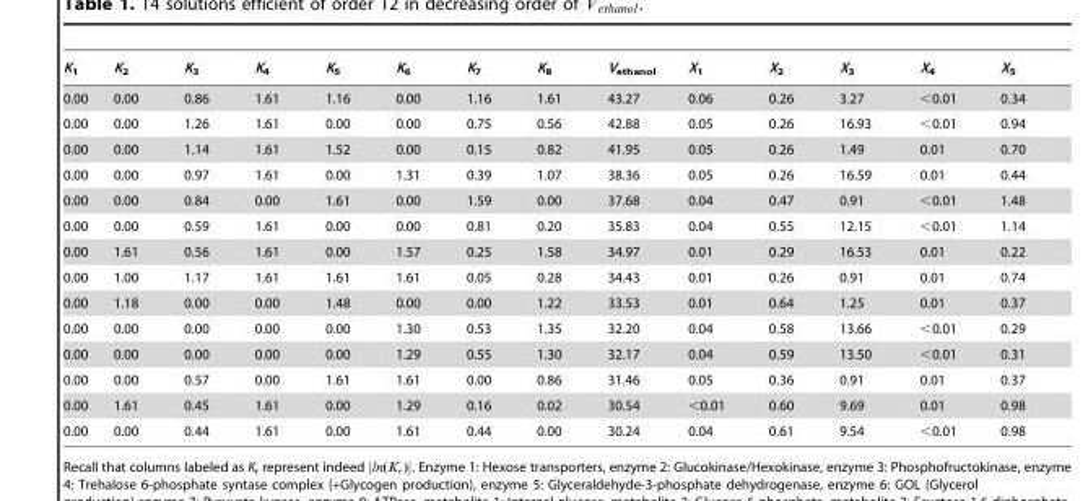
<table><thead><tr><td>K<sub>1</sub></td><td>K<sub>2</sub></td><td>K<sub>3</sub></td><td>K<sub>4</sub></td><td>K<sub>5</sub></td><td>K<sub>6</sub></td><td>K<sub>7</sub></td><td>K<sub>8</sub></td><td>V<sub>ethanol</sub></td><td>X<sub>1</sub></td><td>X<sub>2</sub></td><td>X<sub>3</sub></td><td>X<sub>4</sub></td><td>X<sub>5</sub></td></tr></thead><tbody><tr><td>0.00</td><td>0.00</td><td>0.86</td><td>1.61</td><td>1.16</td><td>0.00</td><td>1.16</td><td>1.61</td><td>43.27</td><td>0.06</td><td>0.26</td><td>3.27</td><td>&lt;0.01</td><td>0.34</td></tr><tr><td>0.00</td><td>0.00</td><td>1.26</td><td>1.61</td><td>0.00</td><td>0.00</td><td>0.75</td><td>0.56</td><td>42.88</td><td>0.05</td><td>0.26</td><td>16.93</td><td>&lt;0.01</td><td>0.94</td></tr><tr><td>0.00</td><td>0.00</td><td>1.14</td><td>1.61</td><td>1.52</td><td>0.00</td><td>0.15</td><td>0.82</td><td>41.95</td><td>0.05</td><td>0.26</td><td>1.49</td><td>0.01</td><td>0.70</td></tr><tr><td>0.00</td><td>0.00</td><td>0.97</td><td>1.61</td><td>0.00</td><td>1.31</td><td>0.39</td><td>1.07</td><td>38.36</td><td>0.05</td><td>0.26</td><td>16.59</td><td>0.01</td><td>0.44</td></tr><tr><td>0.00</td><td>0.00</td><td>0.84</td><td>0.00</td><td>1.61</td><td>0.00</td><td>1.59</td><td>0.00</td><td>37.68</td><td>0.04</td><td>0.47</td><td>0.91</td><td>&lt;0.01</td><td>1.48</td></tr><tr><td>0.00</td><td>0.00</td><td>0.59</td><td>1.61</td><td>0.00</td><td>0.00</td><td>0.81</td><td>0.20</td><td>35.83</td><td>0.04</td><td>0.55</td><td>12.15</td><td>&lt;0.01</td><td>1.14</td></tr><tr><td>0.00</td><td>1.61</td><td>0.56</td><td>1.61</td><td>0.00</td><td>1.57</td><td>0.25</td><td>1.58</td><td>34.97</td><td>0.01</td><td>0.29</td><td>16.53</td><td>0.01</td><td>0.22</td></tr><tr><td>0.00</td><td>1.00</td><td>1.17</td><td>1.61</td><td>1.61</td><td>1.61</td><td>0.05</td><td>0.28</td><td>34.43</td><td>0.01</td><td>0.26</td><td>0.91</td><td>0.01</td><td>0.74</td></tr><tr><td>0.00</td><td>1.18</td><td>0.00</td><td>0.00</td><td>1.48</td><td>0.00</td><td>0.00</td><td>1.22</td><td>33.53</td><td>0.01</td><td>0.64</td><td>1.25</td><td>0.01</td><td>0.37</td></tr><tr><td>0.00</td><td>0.00</td><td>0.00</td><td>0.00</td><td>0.00</td><td>1.30</td><td>0.53</td><td>1.35</td><td>32.20</td><td>0.04</td><td>0.58</td><td>13.66</td><td>&lt;0.01</td><td>0.29</td></tr><tr><td>0.00</td><td>0.00</td><td>0.00</td><td>0.00</td><td>0.00</td><td>1.29</td><td>0.55</td><td>1.30</td><td>32.17</td><td>0.04</td><td>0.59</td><td>13.50</td><td>&lt;0.01</td><td>0.31</td></tr><tr><td>0.00</td><td>0.00</td><td>0.57</td><td>0.00</td><td>1.61</td><td>1.61</td><td>0.00</td><td>0.86</td><td>31.46</td><td>0.05</td><td>0.36</td><td>0.91</td><td>0.01</td><td>0.37</td></tr><tr><td>0.00</td><td>1.61</td><td>0.45</td><td>1.61</td><td>0.00</td><td>1.29</td><td>0.16</td><td>0.02</td><td>30.54</td><td>&lt;0.01</td><td>0.60</td><td>9.69</td><td>0.01</td><td>0.98</td></tr><tr><td>0.00</td><td>0.00</td><td>0.44</td><td>1.61</td><td>0.00</td><td>1.61</td><td>0.44</td><td>0.00</td><td>30.24</td><td>0.04</td><td>0.61</td><td>9.54</td><td>&lt;0.01</td><td>0.98</td></tr></tbody></table>